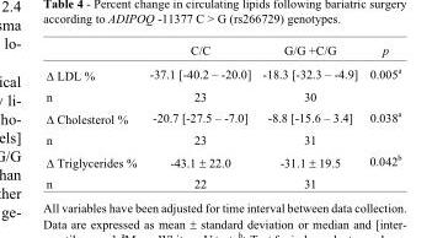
<table><thead><tr><td></td><td>C/C</td><td>G/G +C/G</td><td>p</td></tr></thead><tbody><tr><td>Δ LDL %</td><td>-37.1 [-40.2 – -20.0]</td><td>-18.3 [-32.3 – -4.9]</td><td>0.005<sup>a</sup></td></tr><tr><td>n</td><td>23</td><td>30</td><td></td></tr><tr><td>Δ Cholesterol %</td><td>-20.7 [-27.5 – -7.0]</td><td>-8.8 [-15.6 – 3.4]</td><td>0.038<sup>a</sup></td></tr><tr><td>n</td><td>23</td><td>31</td><td></td></tr><tr><td>Δ Triglycerides %</td><td>-43.1 ± 22.0</td><td>-31.1 ± 19.5</td><td>0.042<sup>b</sup></td></tr><tr><td>n</td><td>22</td><td>31</td><td></td></tr></tbody></table>